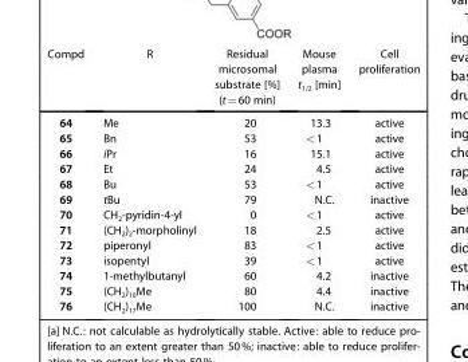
<table><thead><tr><td>Compd</td><td>R</td><td>Residual microsomal substrate [%] (t=60 min)</td><td>Mouse plasma t<sub>1/2</sub> [min]</td><td>Cell proliferation</td></tr></thead><tbody><tr><td>64</td><td>Me</td><td>20</td><td>13.3</td><td>active</td></tr><tr><td>65</td><td>Bn</td><td>53</td><td>&lt;1</td><td>active</td></tr><tr><td>66</td><td>iPr</td><td>16</td><td>15.1</td><td>active</td></tr><tr><td>67</td><td>Et</td><td>24</td><td>4.5</td><td>active</td></tr><tr><td>68</td><td>Bu</td><td>53</td><td>&lt;1</td><td>active</td></tr><tr><td>69</td><td>tBu</td><td>79</td><td>N.C.</td><td>inactive</td></tr><tr><td>70</td><td>CH<sub>2</sub>-pyridin-4-yl</td><td>0</td><td>&lt;1</td><td>active</td></tr><tr><td>71</td><td>(CH<sub>2</sub>)<sub>2</sub>-morpholinyl</td><td>18</td><td>2.5</td><td>active</td></tr><tr><td>72</td><td>piperonyl</td><td>83</td><td>&lt;1</td><td>active</td></tr><tr><td>73</td><td>isopentyl</td><td>39</td><td>&lt;1</td><td>active</td></tr><tr><td>74</td><td>1-methylbutanyl</td><td>60</td><td>4.2</td><td>inactive</td></tr><tr><td>75</td><td>(CH<sub>2</sub>)<sub>10</sub>Me</td><td>80</td><td>4.4</td><td>inactive</td></tr><tr><td>76</td><td>(CH<sub>2</sub>)<sub>17</sub>Me</td><td>100</td><td>N.C.</td><td>inactive</td></tr></tbody></table>